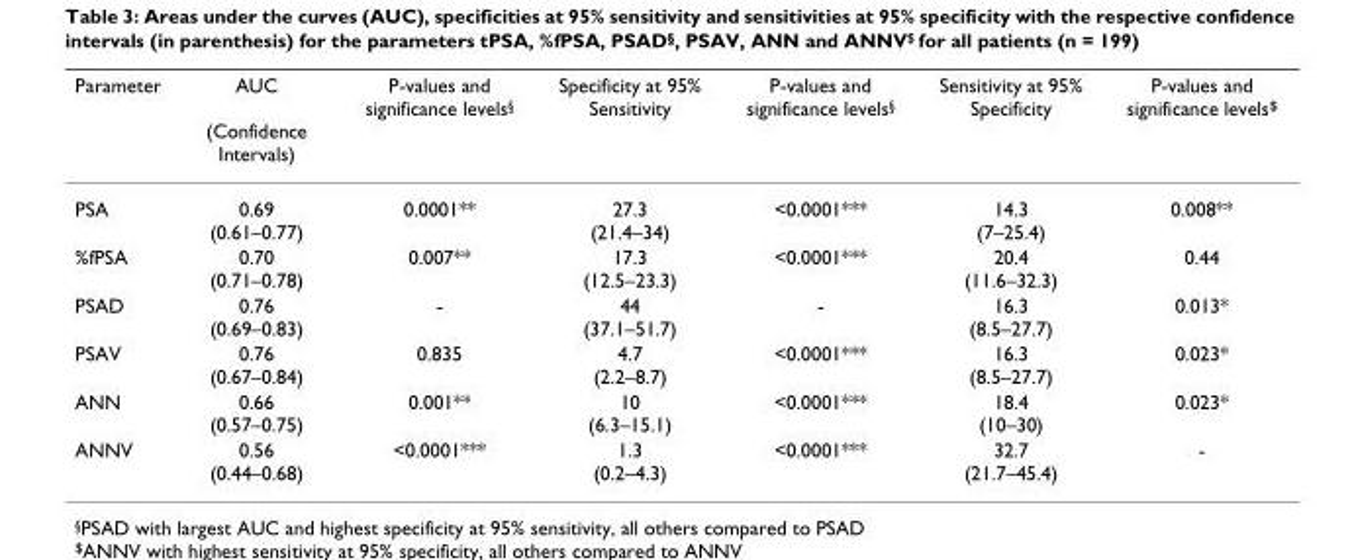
<table><thead><tr><td>Parameter</td><td>AUC (Confidence Intervals)</td><td>P-values and significance levels<sup>§</sup></td><td>Specificity at 95% Sensitivity</td><td>P-values and significance levels<sup>§</sup></td><td>Sensitivity at 95% Specificity</td><td>P-values and significance levels<sup>$</sup></td></tr></thead><tbody><tr><td>PSA</td><td>0.69 (0.61–0.77)</td><td>0.0001**</td><td>27.3 (21.4–34)</td><td>&lt;0.0001***</td><td>14.3 (7–25.4)</td><td>0.008**</td></tr><tr><td>%fPSA</td><td>0.70 (0.71–0.78)</td><td>0.007**</td><td>17.3 (12.5–23.3)</td><td>&lt;0.0001***</td><td>20.4 (11.6–32.3)</td><td>0.44</td></tr><tr><td>PSAD</td><td>0.76 (0.69–0.83)</td><td>-</td><td>44 (37.1–51.7)</td><td>-</td><td>16.3 (8.5–27.7)</td><td>0.013*</td></tr><tr><td>PSAV</td><td>0.76 (0.67–0.84)</td><td>0.835</td><td>4.7 (2.2–8.7)</td><td>&lt;0.0001***</td><td>16.3 (8.5–27.7)</td><td>0.023*</td></tr><tr><td>ANN</td><td>0.66 (0.57–0.75)</td><td>0.001**</td><td>10 (6.3–15.1)</td><td>&lt;0.0001***</td><td>18.4 (10–30)</td><td>0.023*</td></tr><tr><td>ANNV</td><td>0.56 (0.44–0.68)</td><td>&lt;0.0001***</td><td>1.3 (0.2–4.3)</td><td>&lt;0.0001***</td><td>32.7 (21.7–45.4)</td><td>-</td></tr></tbody></table>